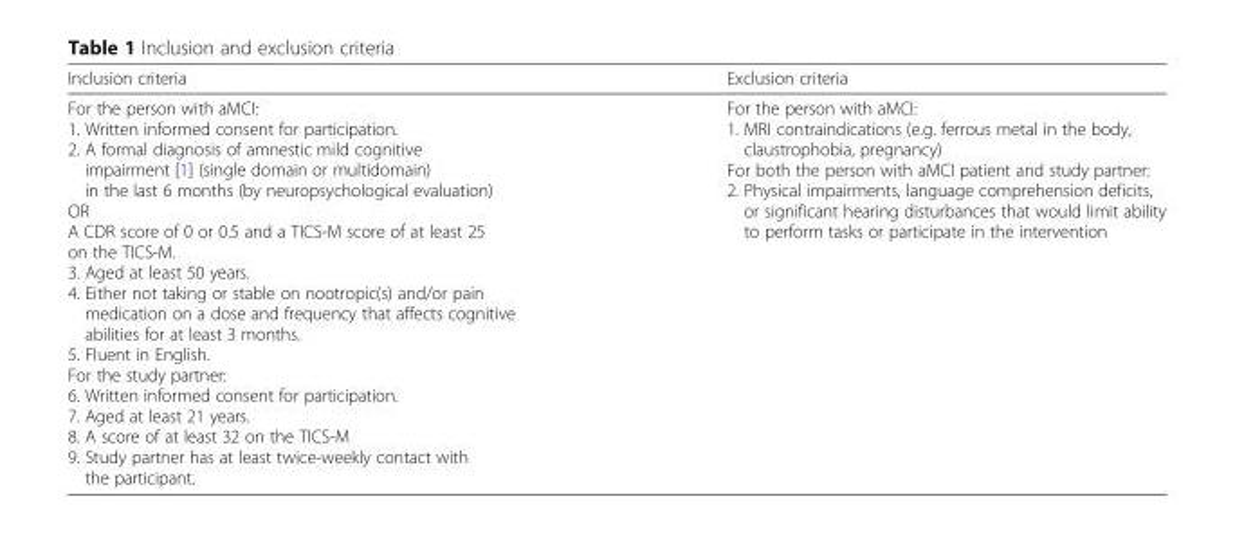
<table><thead><tr><td>Inclusion criteria</td><td>Exclusion criteria</td></tr></thead><tbody><tr><td>For the person with aMCI: 1. Written informed consent for participation. 2. A formal diagnosis of amnestic mild cognitive impairment [1] (single domain or multidomain) in the last 6 months (by neuropsychological evaluation) OR A CDR score of 0 or 0.5 and a TICS-M score of at least 25 on the TICS-M. 3. Aged at least 50 years. 4. Either not taking or stable on nootropic(s) and/or pain medication on a dose and frequency that affects cognitive abilities for at least 3 months. 5. Fluent in English. For the study partner: 6. Written informed consent for participation. 7. Aged at least 21 years. 8. A score of at least 32 on the TICS-M 9. Study partner has at least twice-weekly contact with the participant.</td><td>For the person with aMCI: 1. MRI contraindications (e.g. ferrous metal in the body, claustrophobia, pregnancy) For both the person with aMCI patient and study partner: 2. Physical impairments, language comprehension deficits, or significant hearing disturbances that would limit ability to perform tasks or participate in the intervention</td></tr></tbody></table>